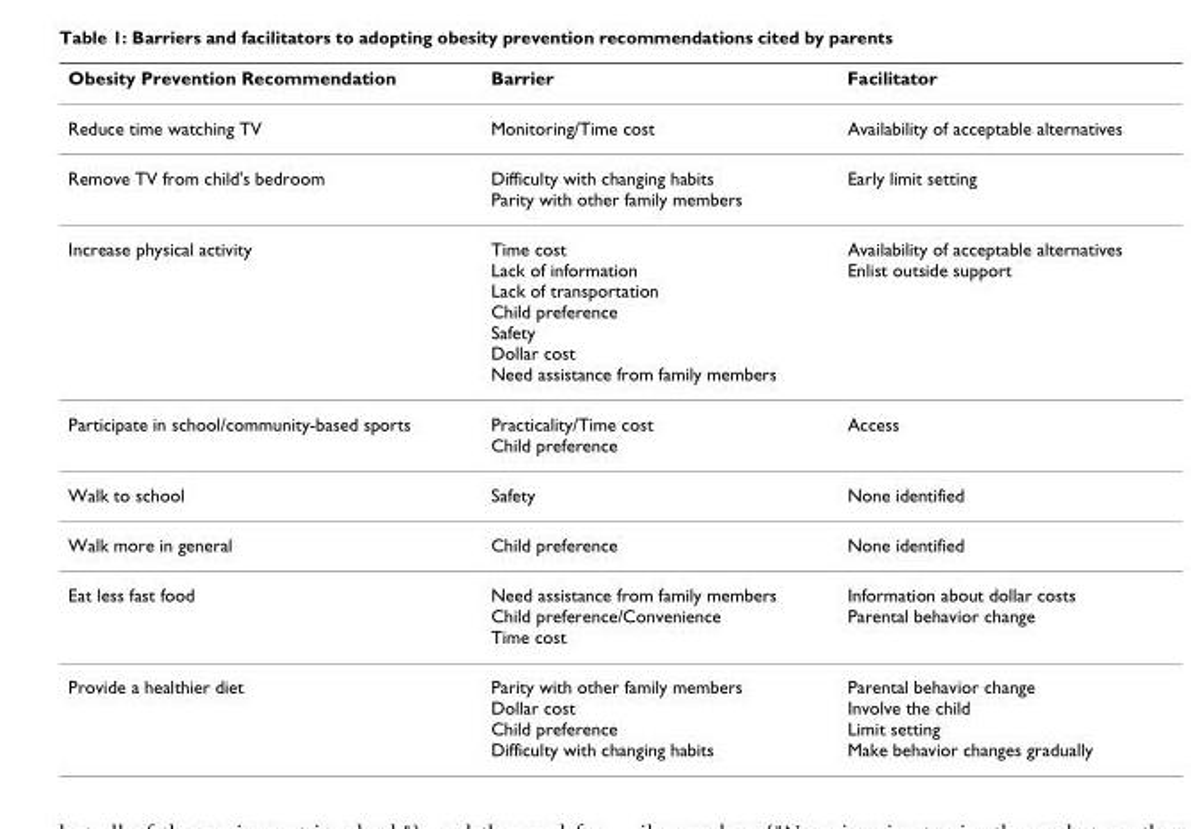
<table><thead><tr><td>Obesity Prevention Recommendation</td><td>Barrier</td><td>Facilitator</td></tr></thead><tbody><tr><td>Reduce time watching TV</td><td>Monitoring/Time cost</td><td>Availability of acceptable alternatives</td></tr><tr><td>Remove TV from child&#x27;s bedroom</td><td>Difficulty with changing habits Parity with other family members</td><td>Early limit setting</td></tr><tr><td>Increase physical activity</td><td>Time cost Lack of information Lack of transportation Child preference Safety Dollar cost Need assistance from family members</td><td>Availability of acceptable alternatives Enlist outside support</td></tr><tr><td>Participate in school/community-based sports</td><td>Practicality/Time cost Child preference</td><td>Access</td></tr><tr><td>Walk to school</td><td>Safety</td><td>None identified</td></tr><tr><td>Walk more in general</td><td>Child preference</td><td>None identified</td></tr><tr><td>Eat less fast food</td><td>Need assistance from family members Child preference/Convenience Time cost</td><td>Information about dollar costs Parental behavior change</td></tr><tr><td>Provide a healthier diet</td><td>Parity with other family members Dollar cost Child preference Difficulty with changing habits</td><td>Parental behavior change Involve the child Limit setting Make behavior changes gradually</td></tr></tbody></table>